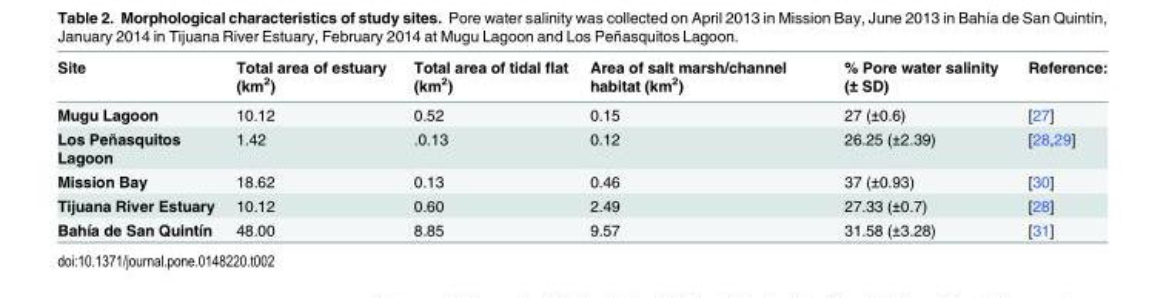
<table><thead><tr><td>Site</td><td>Total area of estuary (km<sup>2</sup>)</td><td>Total area of tidal flat (km<sup>2</sup>)</td><td>Area of salt marsh/channel habitat (km<sup>2</sup>)</td><td>% Pore water salinity (± SD)</td><td>Reference:</td></tr></thead><tbody><tr><td>Mugu Lagoon</td><td>10.12</td><td>0.52</td><td>0.15</td><td>27 (±0.6)</td><td>[27]</td></tr><tr><td>Los Peñasquitos Lagoon</td><td>1.42</td><td>.0.13</td><td>0.12</td><td>26.25 (±2.39)</td><td>[28,29]</td></tr><tr><td>Mission Bay</td><td>18.62</td><td>0.13</td><td>0.46</td><td>37 (±0.93)</td><td>[30]</td></tr><tr><td>Tijuana River Estuary</td><td>10.12</td><td>0.60</td><td>2.49</td><td>27.33 (±0.7)</td><td>[28]</td></tr><tr><td>Bahía de San Quintín</td><td>48.00</td><td>8.85</td><td>9.57</td><td>31.58 (±3.28)</td><td>[31]</td></tr></tbody></table>